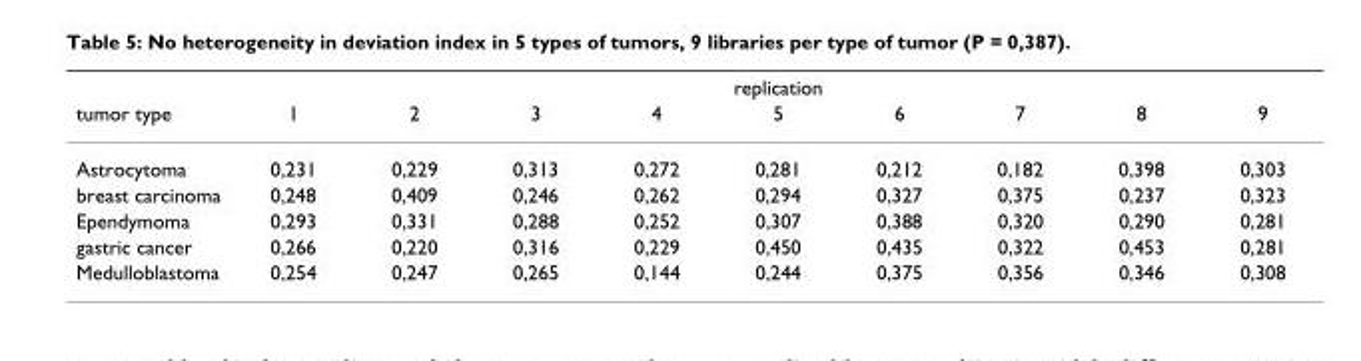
<table><thead><tr><td rowspan="2">tumor type</td><td colspan="9">replication</td></tr><tr><td>1</td><td>2</td><td>3</td><td>4</td><td>5</td><td>6</td><td>7</td><td>8</td><td>9</td></tr></thead><tbody><tr><td>Astrocytoma</td><td>0,231</td><td>0,229</td><td>0,313</td><td>0,272</td><td>0,281</td><td>0,212</td><td>0,182</td><td>0,398</td><td>0,303</td></tr><tr><td>breast carcinoma</td><td>0,248</td><td>0,409</td><td>0,246</td><td>0,262</td><td>0,294</td><td>0,327</td><td>0,375</td><td>0,237</td><td>0,323</td></tr><tr><td>Ependymoma</td><td>0,293</td><td>0,331</td><td>0,288</td><td>0,252</td><td>0,307</td><td>0,388</td><td>0,320</td><td>0,290</td><td>0,281</td></tr><tr><td>gastric cancer</td><td>0,266</td><td>0,220</td><td>0,316</td><td>0,229</td><td>0,450</td><td>0,435</td><td>0,322</td><td>0,453</td><td>0,281</td></tr><tr><td>Medulloblastoma</td><td>0,254</td><td>0,247</td><td>0,265</td><td>0,144</td><td>0,244</td><td>0,375</td><td>0,356</td><td>0,346</td><td>0,308</td></tr></tbody></table>